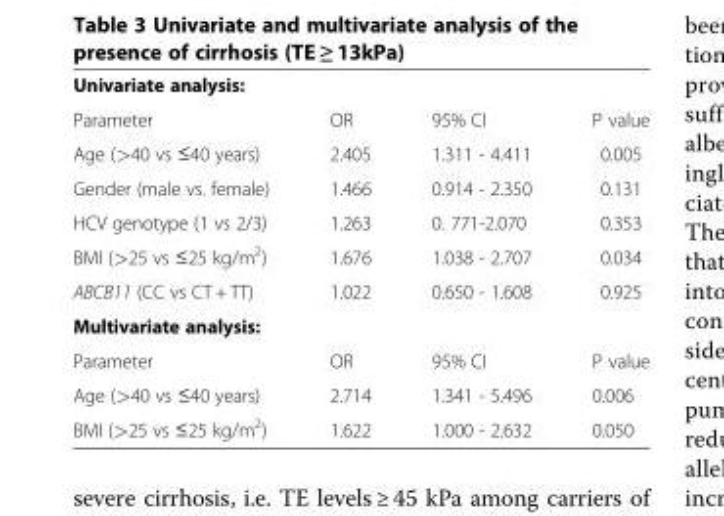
<table><tbody><tr><td colspan="4">Univariate analysis:</td></tr><tr><td>Parameter</td><td>OR</td><td>95% CI</td><td>P value</td></tr><tr><td>Age (&gt;40 vs ≤40 years)</td><td>2.405</td><td>1.311 - 4.411</td><td>0.005</td></tr><tr><td>Gender (male vs. female)</td><td>1.466</td><td>0.914 - 2.350</td><td>0.131</td></tr><tr><td>HCV genotype (1 vs 2/3)</td><td>1.263</td><td>0. 771-2.070</td><td>0.353</td></tr><tr><td>BMI (&gt;25 vs ≤25 kg/m<sup>2</sup>)</td><td>1.676</td><td>1.038 - 2.707</td><td>0.034</td></tr><tr><td>ABCB11 (CC vs CT + TT)</td><td>1.022</td><td>0.650 - 1.608</td><td>0.925</td></tr><tr><td colspan="4">Multivariate analysis:</td></tr><tr><td>Parameter</td><td>OR</td><td>95% CI</td><td>P value</td></tr><tr><td>Age (&gt;40 vs ≤40 years)</td><td>2.714</td><td>1.341 - 5.496</td><td>0.006</td></tr><tr><td>BMI (&gt;25 vs ≤25 kg/m<sup>2</sup>)</td><td>1.622</td><td>1.000 - 2.632</td><td>0.050</td></tr></tbody></table>